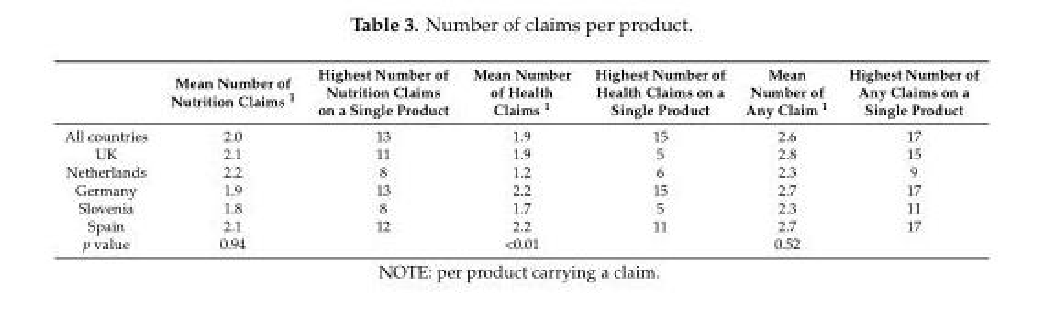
<table><thead><tr><td></td><td>Mean Number of Nutrition Claims <sup>1</sup></td><td>Highest Number of Nutrition Claims on a Single Product</td><td>Mean Number of Health Claims <sup>1</sup></td><td>Highest Number of Health Claims on a Single Product</td><td>Mean Number of Any Claim <sup>1</sup></td><td>Highest Number of Any Claims on a Single Product</td></tr></thead><tbody><tr><td>All countries</td><td>2.0</td><td>13</td><td>1.9</td><td>15</td><td>2.6</td><td>17</td></tr><tr><td>UK</td><td>2.1</td><td>11</td><td>1.9</td><td>5</td><td>2.8</td><td>15</td></tr><tr><td>Netherlands</td><td>2.2</td><td>8</td><td>1.2</td><td>6</td><td>2.3</td><td>9</td></tr><tr><td>Germany</td><td>1.9</td><td>13</td><td>2.2</td><td>15</td><td>2.7</td><td>17</td></tr><tr><td>Slovenia</td><td>1.8</td><td>8</td><td>1.7</td><td>5</td><td>2.3</td><td>11</td></tr><tr><td>Spain</td><td>2.1</td><td>12</td><td>2.2</td><td>11</td><td>2.7</td><td>17</td></tr><tr><td>p value</td><td>0.94</td><td></td><td>&lt;0.01</td><td></td><td>0.52</td><td></td></tr></tbody></table>